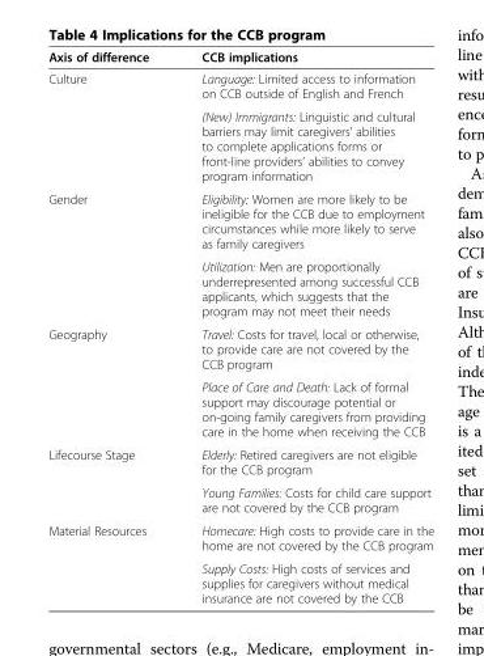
<table><thead><tr><td>Axis of difference</td><td>CCB implications</td></tr></thead><tbody><tr><td rowspan="2">Culture</td><td>Language: Limited access to information on CCB outside of English and French</td></tr><tr><td>(New) Immigrants: Linguistic and cultural barriers may limit caregivers’ abilities to complete applications forms or front-line providers’ abilities to convey program information</td></tr><tr><td rowspan="2">Gender</td><td>Eligibility: Women are more likely to be ineligible for the CCB due to employment circumstances while more likely to serve as family caregivers</td></tr><tr><td>Utilization: Men are proportionally underrepresented among successful CCB applicants, which suggests that the program may not meet their needs</td></tr><tr><td rowspan="2">Geography</td><td>Travel: Costs for travel, local or otherwise, to provide care are not covered by the CCB program</td></tr><tr><td>Place of Care and Death: Lack of formal support may discourage potential or on-going family caregivers from providing care in the home when receiving the CCB</td></tr><tr><td rowspan="2">Lifecourse Stage</td><td>Elderly: Retired caregivers are not eligible for the CCB program</td></tr><tr><td>Young Families: Costs for child care support are not covered by the CCB program</td></tr><tr><td rowspan="2">Material Resources</td><td>Homecare: High costs to provide care in the home are not covered by the CCB program</td></tr><tr><td>Supply Costs: High costs of services and supplies for caregivers without medical insurance are not covered by the CCB</td></tr></tbody></table>